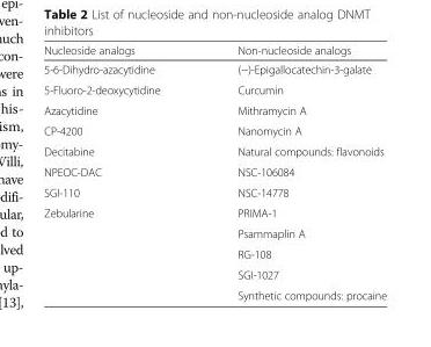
<table><thead><tr><td>Nucleoside analogs</td><td>Non-nucleoside analogs</td></tr></thead><tbody><tr><td>5-6-Dihydro-azacytidine</td><td>(−)-Epigallocatechin-3-galate</td></tr><tr><td>5-Fluoro-2-deoxycytidine</td><td>Curcumin</td></tr><tr><td>Azacytidine</td><td>Mithramycin A</td></tr><tr><td>CP-4200</td><td>Nanomycin A</td></tr><tr><td>Decitabine</td><td>Natural compounds: flavonoids</td></tr><tr><td>NPEOC-DAC</td><td>NSC-106084</td></tr><tr><td>SGI-110</td><td>NSC-14778</td></tr><tr><td rowspan="5">Zebularine</td><td>PRIMA-1</td></tr><tr><td>Psammaplin A</td></tr><tr><td>RG-108</td></tr><tr><td>SGI-1027</td></tr><tr><td>Synthetic compounds: procaine</td></tr></tbody></table>